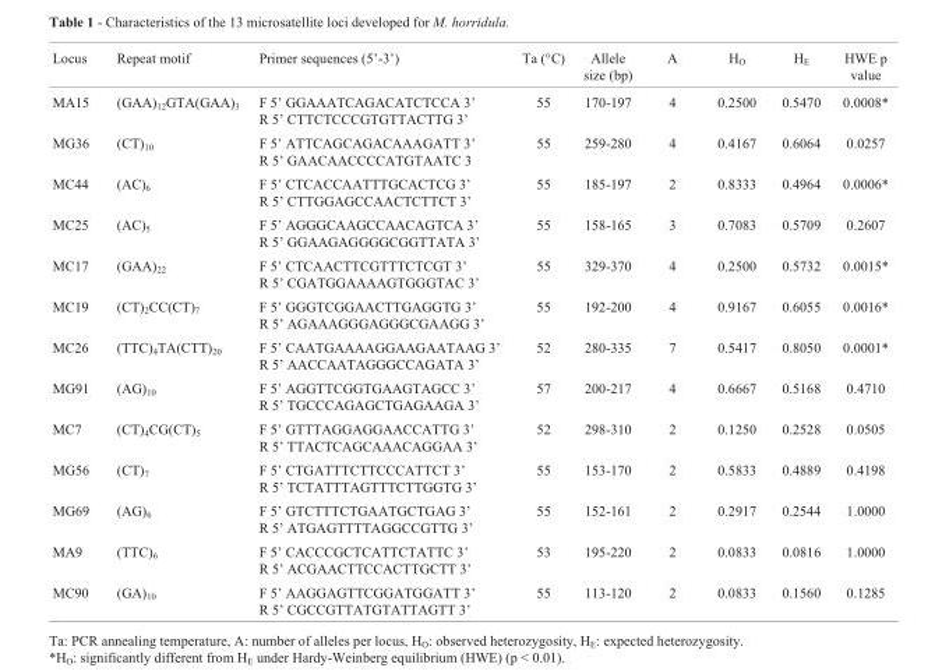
<table><thead><tr><td>Locus</td><td>Repeat motif</td><td>Primer sequences (5’-3’)</td><td>Ta (°C)</td><td>Allele size (bp)</td><td>A</td><td>H<sub>O</sub></td><td>H<sub>E</sub></td><td>HWE p value</td></tr></thead><tbody><tr><td>MA15</td><td>(GAA)<sub>12</sub>GTA(GAA)<sub>3</sub></td><td>F 5’ GGAAATCAGACATCTCCA 3’ R 5’ CTTCTCCCGTGTTACTTG 3’</td><td>55</td><td>170-197</td><td>4</td><td>0.2500</td><td>0.5470</td><td>0.0008*</td></tr><tr><td>MG36</td><td>(CT)<sub>10</sub></td><td>F 5’ ATTCAGCAGACAAAGATT 3’ R 5’ GAACAACCCCATGTAATC 3</td><td>55</td><td>259-280</td><td>4</td><td>0.4167</td><td>0.6064</td><td>0.0257</td></tr><tr><td>MC44</td><td>(AC)<sub>6</sub></td><td>F 5’ CTCACCAATTTGCACTCG 3’ R 5’ CTTGGAGCCAACTCTTCT 3’</td><td>55</td><td>185-197</td><td>2</td><td>0.8333</td><td>0.4964</td><td>0.0006*</td></tr><tr><td>MC25</td><td>(AC)<sub>5</sub></td><td>F 5’ AGGGCAAGCCAACAGTCA 3’ R 5’ GGAAGAGGGGCGGTTATA 3’</td><td>55</td><td>158-165</td><td>3</td><td>0.7083</td><td>0.5709</td><td>0.2607</td></tr><tr><td>MC17</td><td>(GAA)<sub>22</sub></td><td>F 5’ CTCAACTTCGTTTCTCGT 3’ R 5’ CGATGGAAAAGTGGGTAC 3’</td><td>55</td><td>329-370</td><td>4</td><td>0.2500</td><td>0.5732</td><td>0.0015*</td></tr><tr><td>MC19</td><td>(CT)<sub>2</sub>CC(CT)<sub>7</sub></td><td>F 5’ GGGTCGGAACTTGAGGTG 3’ R 5’ AGAAAGGGAGGGCGAAGG 3’</td><td>55</td><td>192-200</td><td>4</td><td>0.9167</td><td>0.6055</td><td>0.0016*</td></tr><tr><td>MC26</td><td>(TTC)<sub>4</sub>TA(CTT)<sub>20</sub></td><td>F 5’ CAATGAAAAGGAAGAATAAG 3’ R 5’ AACCAATAGGGCCAGATA 3’</td><td>52</td><td>280-335</td><td>7</td><td>0.5417</td><td>0.8050</td><td>0.0001*</td></tr><tr><td>MG91</td><td>(AG)<sub>10</sub></td><td>F 5’ AGGTTCGGTGAAGTAGCC 3’ R 5’ TGCCCAGAGCTGAGAAGA 3’</td><td>57</td><td>200-217</td><td>4</td><td>0.6667</td><td>0.5168</td><td>0.4710</td></tr><tr><td>MC7</td><td>(CT)<sub>4</sub>CG(CT)<sub>5</sub></td><td>F 5’ GTTTAGGAGGAACCATTG 3’ R 5’ TTACTCAGCAAACAGGAA 3’</td><td>52</td><td>298-310</td><td>2</td><td>0.1250</td><td>0.2528</td><td>0.0505</td></tr><tr><td>MG56</td><td>(CT)<sub>7</sub></td><td>F 5’ CTGATTTCTTCCCATTCT 3’ R 5’ TCTATTTAGTTTCTTGGTG 3’</td><td>55</td><td>153-170</td><td>2</td><td>0.5833</td><td>0.4889</td><td>0.4198</td></tr><tr><td>MG69</td><td>(AG)<sub>6</sub></td><td>F 5’ GTCTTTCTGAATGCTGAG 3’ R 5’ ATGAGTTTTAGGCCGTTG 3’</td><td>55</td><td>152-161</td><td>2</td><td>0.2917</td><td>0.2544</td><td>1.0000</td></tr><tr><td>MA9</td><td>(TTC)<sub>6</sub></td><td>F 5’ CACCCGCTCATTCTATTC 3’ R 5’ ACGAACTTCCACTTGCTT 3’</td><td>53</td><td>195-220</td><td>2</td><td>0.0833</td><td>0.0816</td><td>1.0000</td></tr><tr><td>MC90</td><td>(GA)<sub>10</sub></td><td>F 5’ AAGGAGTTCGGATGGATT 3’ R 5’ CGCCGTTATGTATTAGTT 3’</td><td>55</td><td>113-120</td><td>2</td><td>0.0833</td><td>0.1560</td><td>0.1285</td></tr></tbody></table>